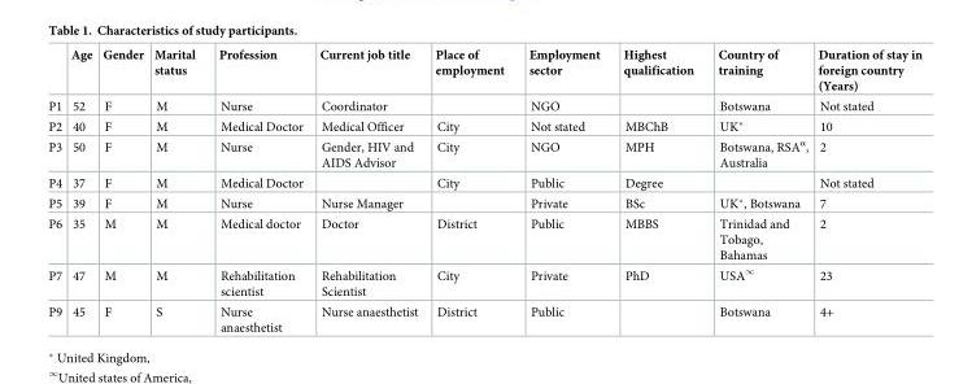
<table><thead><tr><td></td><td>Age</td><td>Gender</td><td>Marital status</td><td>Profession</td><td>Current job title</td><td>Place of employment</td><td>Employment sector</td><td>Highest qualification</td><td>Country of training</td><td>Duration of stay in foreign country (Years)</td></tr></thead><tbody><tr><td>P1</td><td>52</td><td>F</td><td>M</td><td>Nurse</td><td>Coordinator</td><td></td><td>NGO</td><td></td><td>Botswana</td><td>Not stated</td></tr><tr><td>P2</td><td>40</td><td>F</td><td>M</td><td>Medical Doctor</td><td>Medical Officer</td><td>City</td><td>Not stated</td><td>MBChB</td><td>UK*</td><td>10</td></tr><tr><td>P3</td><td>50</td><td>F</td><td>M</td><td>Nurse</td><td>Gender, HIV and AIDS Advisor</td><td>City</td><td>NGO</td><td>MPH</td><td>Botswana, RSA<sup>α</sup>, Australia</td><td>2</td></tr><tr><td>P4</td><td>37</td><td>F</td><td>M</td><td>Medical Doctor</td><td></td><td>City</td><td>Public</td><td>Degree</td><td></td><td>Not stated</td></tr><tr><td>P5</td><td>39</td><td>F</td><td>M</td><td>Nurse</td><td>Nurse Manager</td><td></td><td>Private</td><td>BSc</td><td>UK*, Botswana</td><td>7</td></tr><tr><td>P6</td><td>35</td><td>M</td><td>M</td><td>Medical doctor</td><td>Doctor</td><td>District</td><td>Public</td><td>MBBS</td><td>Trinidad and Tobago, Bahamas</td><td>2</td></tr><tr><td>P7</td><td>47</td><td>M</td><td>M</td><td>Rehabilitation scientist</td><td>Rehabilitation Scientist</td><td>City</td><td>Private</td><td>PhD</td><td>USA<sup>∞</sup></td><td>23</td></tr><tr><td>P9</td><td>45</td><td>F</td><td>S</td><td>Nurse anaesthetist</td><td>Nurse anaesthetist</td><td>District</td><td>Public</td><td></td><td>Botswana</td><td>4+</td></tr></tbody></table>